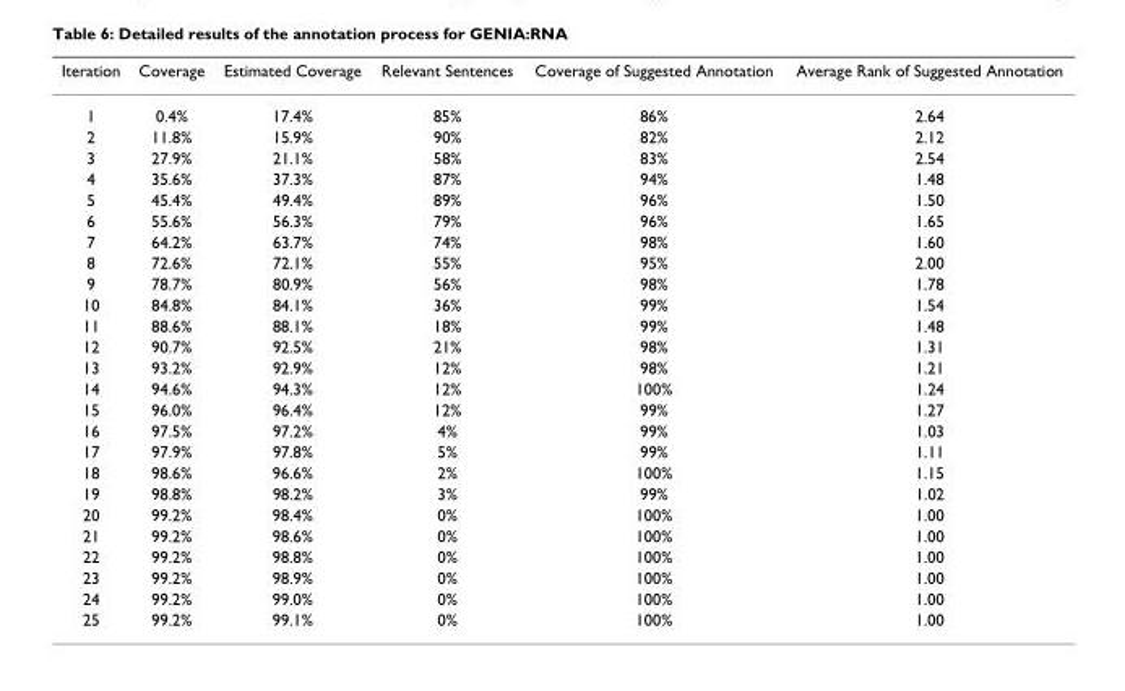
<table><thead><tr><td>Iteration</td><td>Coverage</td><td>Estimated Coverage</td><td>Relevant Sentences</td><td>Coverage of Suggested Annotation</td><td>Average Rank of Suggested Annotation</td></tr></thead><tbody><tr><td>1</td><td>0.4%</td><td>17.4%</td><td>85%</td><td>86%</td><td>2.64</td></tr><tr><td>2</td><td>11.8%</td><td>15.9%</td><td>90%</td><td>82%</td><td>2.12</td></tr><tr><td>3</td><td>27.9%</td><td>21.1%</td><td>58%</td><td>83%</td><td>2.54</td></tr><tr><td>4</td><td>35.6%</td><td>37.3%</td><td>87%</td><td>94%</td><td>1.48</td></tr><tr><td>5</td><td>45.4%</td><td>49.4%</td><td>89%</td><td>96%</td><td>1.50</td></tr><tr><td>6</td><td>55.6%</td><td>56.3%</td><td>79%</td><td>96%</td><td>1.65</td></tr><tr><td>7</td><td>64.2%</td><td>63.7%</td><td>74%</td><td>98%</td><td>1.60</td></tr><tr><td>8</td><td>72.6%</td><td>72.1%</td><td>55%</td><td>95%</td><td>2.00</td></tr><tr><td>9</td><td>78.7%</td><td>80.9%</td><td>56%</td><td>98%</td><td>1.78</td></tr><tr><td>10</td><td>84.8%</td><td>84.1%</td><td>36%</td><td>99%</td><td>1.54</td></tr><tr><td>11</td><td>88.6%</td><td>88.1%</td><td>18%</td><td>99%</td><td>1.48</td></tr><tr><td>12</td><td>90.7%</td><td>92.5%</td><td>21%</td><td>98%</td><td>1.31</td></tr><tr><td>13</td><td>93.2%</td><td>92.9%</td><td>12%</td><td>98%</td><td>1.21</td></tr><tr><td>14</td><td>94.6%</td><td>94.3%</td><td>12%</td><td>100%</td><td>1.24</td></tr><tr><td>15</td><td>96.0%</td><td>96.4%</td><td>12%</td><td>99%</td><td>1.27</td></tr><tr><td>16</td><td>97.5%</td><td>97.2%</td><td>4%</td><td>99%</td><td>1.03</td></tr><tr><td>17</td><td>97.9%</td><td>97.8%</td><td>5%</td><td>99%</td><td>1.11</td></tr><tr><td>18</td><td>98.6%</td><td>96.6%</td><td>2%</td><td>100%</td><td>1.15</td></tr><tr><td>19</td><td>98.8%</td><td>98.2%</td><td>3%</td><td>99%</td><td>1.02</td></tr><tr><td>20</td><td>99.2%</td><td>98.4%</td><td>0%</td><td>100%</td><td>1.00</td></tr><tr><td>21</td><td>99.2%</td><td>98.6%</td><td>0%</td><td>100%</td><td>1.00</td></tr><tr><td>22</td><td>99.2%</td><td>98.8%</td><td>0%</td><td>100%</td><td>1.00</td></tr><tr><td>23</td><td>99.2%</td><td>98.9%</td><td>0%</td><td>100%</td><td>1.00</td></tr><tr><td>24</td><td>99.2%</td><td>99.0%</td><td>0%</td><td>100%</td><td>1.00</td></tr><tr><td>25</td><td>99.2%</td><td>99.1%</td><td>0%</td><td>100%</td><td>1.00</td></tr></tbody></table>